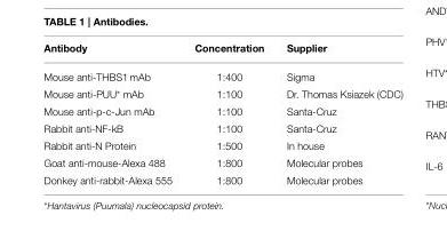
<table><thead><tr><td>Antibody</td><td>Concentration</td><td>Supplier</td></tr></thead><tbody><tr><td>Mouse anti-THBS1 mAb</td><td>1:400</td><td>Sigma</td></tr><tr><td>Mouse anti-PUU* mAb</td><td>1:100</td><td>Dr. Thomas Ksiazek (CDC)</td></tr><tr><td>Mouse anti-p-c-Jun mAb</td><td>1:100</td><td>Santa-Cruz</td></tr><tr><td>Rabbit anti-NF-kB</td><td>1:100</td><td>Santa-Cruz</td></tr><tr><td>Rabbit anti-N Protein</td><td>1:500</td><td>In house</td></tr><tr><td>Goat anti-mouse-Alexa 488</td><td>1:800</td><td>Molecular probes</td></tr><tr><td>Donkey anti-rabbit-Alexa 555</td><td>1:800</td><td>Molecular probes</td></tr></tbody></table>